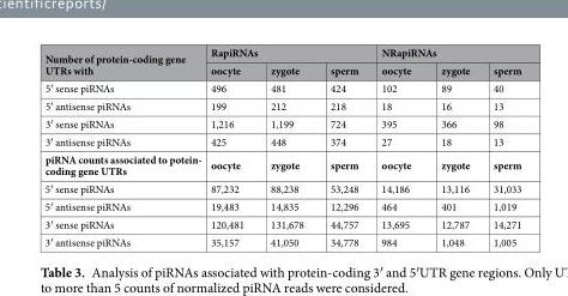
<table><thead><tr><td rowspan="2">Number of protein-coding gene UTRs with</td><td colspan="3">RapiRNAs</td><td colspan="3">NRapiRNAs</td></tr><tr><td>oocyte</td><td>zygote</td><td>sperm</td><td>oocyte</td><td>zygote</td><td>sperm</td></tr></thead><tbody><tr><td>5′ sense piRNAs</td><td>496</td><td>481</td><td>424</td><td>102</td><td>89</td><td>40</td></tr><tr><td>5′ antisense piRNAs</td><td>199</td><td>212</td><td>218</td><td>18</td><td>16</td><td>13</td></tr><tr><td>3′ sense piRNAs</td><td>1,216</td><td>1,199</td><td>724</td><td>395</td><td>366</td><td>98</td></tr><tr><td>3′ antisense piRNAs</td><td>425</td><td>448</td><td>374</td><td>27</td><td>18</td><td>13</td></tr><tr><td>piRNA counts associated to potein- coding gene UTRs</td><td>oocyte</td><td>zygote</td><td>sperm</td><td>oocyte</td><td>zygote</td><td>sperm</td></tr><tr><td>5′ sense piRNAs</td><td>87,232</td><td>88,238</td><td>53,248</td><td>14,186</td><td>13,116</td><td>31,033</td></tr><tr><td>5′ antisense piRNAs</td><td>19,483</td><td>14,835</td><td>12,296</td><td>464</td><td>401</td><td>1,019</td></tr><tr><td>3′ sense piRNAs</td><td>120,481</td><td>131,678</td><td>44,757</td><td>13,695</td><td>12,787</td><td>14,271</td></tr><tr><td>3′ antisense piRNAs</td><td>35,157</td><td>41,050</td><td>34,778</td><td>984</td><td>1,048</td><td>1,005</td></tr></tbody></table>